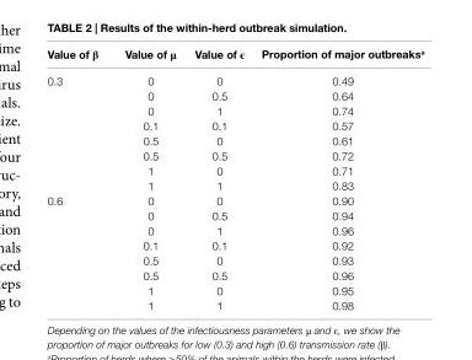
<table><thead><tr><td>Value of β</td><td>Value of μ</td><td>Value of ϵ</td><td>Proportion of major outbreaks<sup>a</sup></td></tr></thead><tbody><tr><td rowspan="8">0.3</td><td>0</td><td>0</td><td>0.49</td></tr><tr><td>0</td><td>0.5</td><td>0.64</td></tr><tr><td>0</td><td>1</td><td>0.74</td></tr><tr><td>0.1</td><td>0.1</td><td>0.57</td></tr><tr><td>0.5</td><td>0</td><td>0.61</td></tr><tr><td>0.5</td><td>0.5</td><td>0.72</td></tr><tr><td>1</td><td>0</td><td>0.71</td></tr><tr><td>1</td><td>1</td><td>0.83</td></tr><tr><td rowspan="8">0.6</td><td>0</td><td>0</td><td>0.90</td></tr><tr><td>0</td><td>0.5</td><td>0.94</td></tr><tr><td>0</td><td>1</td><td>0.96</td></tr><tr><td>0.1</td><td>0.1</td><td>0.92</td></tr><tr><td>0.5</td><td>0</td><td>0.93</td></tr><tr><td>0.5</td><td>0.5</td><td>0.96</td></tr><tr><td>1</td><td>0</td><td>0.95</td></tr><tr><td>1</td><td>1</td><td>0.98</td></tr></tbody></table>